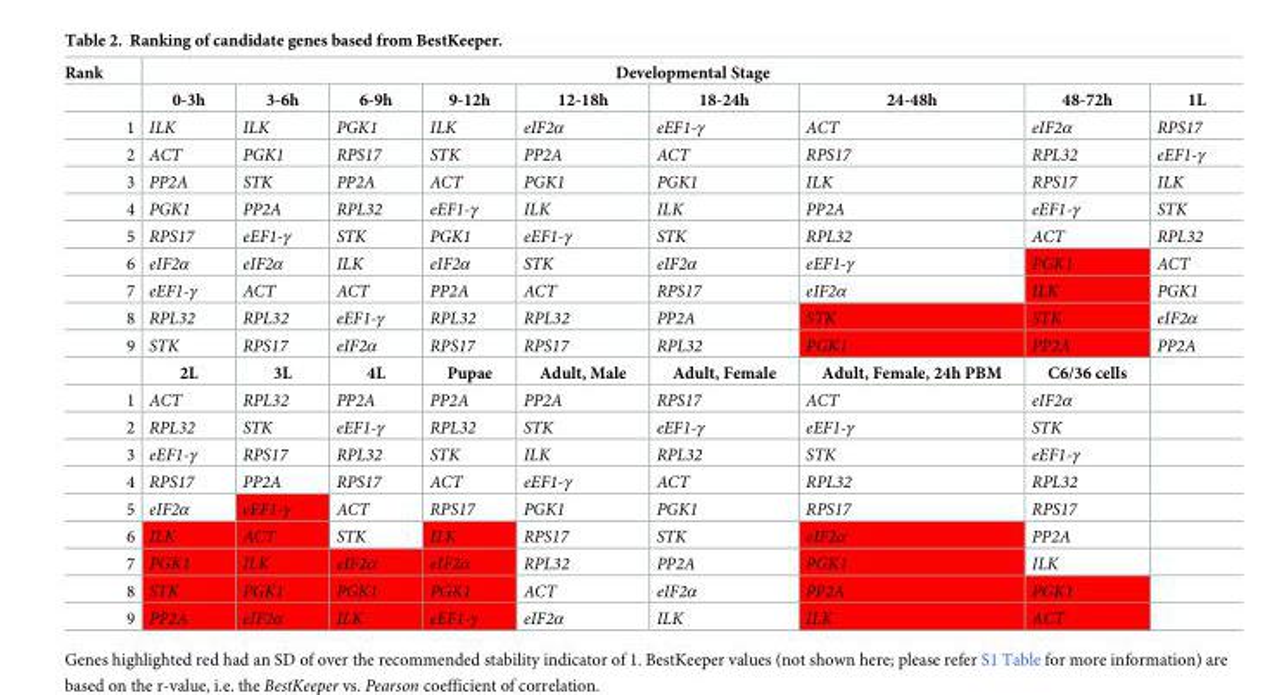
<table><thead><tr><td rowspan="2">Rank</td><td colspan="9">Developmental Stage</td></tr><tr><td>0-3h</td><td>3-6h</td><td>6-9h</td><td>9-12h</td><td>12-18h</td><td>18-24h</td><td>24-48h</td><td>48-72h</td><td>1L</td></tr></thead><tbody><tr><td>1</td><td>ILK</td><td>ILK</td><td>PGK1</td><td>ILK</td><td>eIF2α</td><td>eEF1-γ</td><td>ACT</td><td>eIF2α</td><td>RPS17</td></tr><tr><td>2</td><td>ACT</td><td>PGK1</td><td>RPS17</td><td>STK</td><td>PP2A</td><td>ACT</td><td>RPS17</td><td>RPL32</td><td>eEF1-γ</td></tr><tr><td>3</td><td>PP2A</td><td>STK</td><td>PP2A</td><td>ACT</td><td>PGK1</td><td>PGK1</td><td>ILK</td><td>RPS17</td><td>ILK</td></tr><tr><td>4</td><td>PGK1</td><td>PP2A</td><td>RPL32</td><td>eEF1-γ</td><td>ILK</td><td>ILK</td><td>PP2A</td><td>eEF1-γ</td><td>STK</td></tr><tr><td>5</td><td>RPS17</td><td>eEF1-γ</td><td>STK</td><td>PGK1</td><td>eEF1-γ</td><td>STK</td><td>RPL32</td><td>ACT</td><td>RPL32</td></tr><tr><td>6</td><td>eIF2α</td><td>eIF2α</td><td>ILK</td><td>eIF2α</td><td>STK</td><td>eIF2α</td><td>eEF1-γ</td><td>PGK1</td><td>ACT</td></tr><tr><td>7</td><td>eEF1-γ</td><td>ACT</td><td>ACT</td><td>PP2A</td><td>ACT</td><td>RPS17</td><td>eIF2α</td><td>ILK</td><td>PGK1</td></tr><tr><td>8</td><td>RPL32</td><td>RPL32</td><td>eEF1-γ</td><td>RPL32</td><td>RPL32</td><td>PP2A</td><td>STK</td><td>STK</td><td>eIF2α</td></tr><tr><td rowspan="2">9</td><td>STK</td><td>RPS17</td><td>eIF2α</td><td>RPS17</td><td>RPS17</td><td>RPL32</td><td>PGK1</td><td>PP2A</td><td>PP2A</td></tr><tr><td>2L</td><td>3L</td><td>4L</td><td>Pupae</td><td>Adult, Male</td><td>Adult, Female</td><td>Adult, Female, 24h PBM</td><td>C6/36 cells</td><td></td></tr><tr><td>1</td><td>ACT</td><td>RPL32</td><td>PP2A</td><td>PP2A</td><td>PP2A</td><td>RPS17</td><td>ACT</td><td>eIF2α</td><td></td></tr><tr><td>2</td><td>RPL32</td><td>STK</td><td>eEF1-γ</td><td>RPL32</td><td>STK</td><td>eEF1-γ</td><td>eEF1-γ</td><td>STK</td><td></td></tr><tr><td>3</td><td>eEF1-γ</td><td>RPS17</td><td>RPL32</td><td>STK</td><td>ILK</td><td>RPL32</td><td>STK</td><td>eEF1-γ</td><td></td></tr><tr><td>4</td><td>RPS17</td><td>PP2A</td><td>RPS17</td><td>ACT</td><td>eEF1-γ</td><td>ACT</td><td>RPL32</td><td>RPL32</td><td></td></tr><tr><td>5</td><td>eIF2α</td><td>eEF1-γ</td><td>ACT</td><td>RPS17</td><td>PGK1</td><td>PGK1</td><td>RPS17</td><td>RPS17</td><td></td></tr><tr><td>6</td><td>ILK</td><td>ACT</td><td>STK</td><td>ILK</td><td>RPS17</td><td>STK</td><td>eIF2α</td><td>PP2A</td><td></td></tr><tr><td>7</td><td>PGK1</td><td>ILK</td><td>eIF2α</td><td>eIF2α</td><td>RPL32</td><td>PP2A</td><td>PGK1</td><td>ILK</td><td></td></tr><tr><td>8</td><td>STK</td><td>PGK1</td><td>PGK1</td><td>PGK1</td><td>ACT</td><td>eIF2α</td><td>PP2A</td><td>PGK1</td><td></td></tr><tr><td>9</td><td>PP2A</td><td>eIF2α</td><td>ILK</td><td>eEF1-γ</td><td>eIF2α</td><td>ILK</td><td>ILK</td><td>ACT</td><td></td></tr></tbody></table>